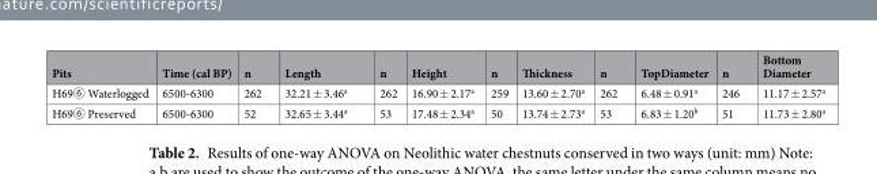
<table><thead><tr><td>Pits</td><td>Time (cal BP)</td><td>n</td><td>Length</td><td>n</td><td>Height</td><td>n</td><td>Thickness</td><td>n</td><td>TopDiameter</td><td>n</td><td>Bottom Diameter</td></tr></thead><tbody><tr><td>H69⑥ Waterlogged</td><td>6500-6300</td><td>262</td><td>32.21 ± 3.46<sup>a</sup></td><td>262</td><td>16.90 ± 2.17<sup>a</sup></td><td>259</td><td>13.60 ± 2.70<sup>a</sup></td><td>262</td><td>6.48 ± 0.91<sup>a</sup></td><td>246</td><td>11.17 ± 2.57<sup>a</sup></td></tr><tr><td>H69⑥ Preserved</td><td>6500-6300</td><td>52</td><td>32.65 ± 3.44<sup>a</sup></td><td>53</td><td>17.48 ± 2.34<sup>a</sup></td><td>50</td><td>13.74 ± 2.73<sup>a</sup></td><td>53</td><td>6.83 ± 1.20<sup>b</sup></td><td>51</td><td>11.73 ± 2.80<sup>a</sup></td></tr></tbody></table>